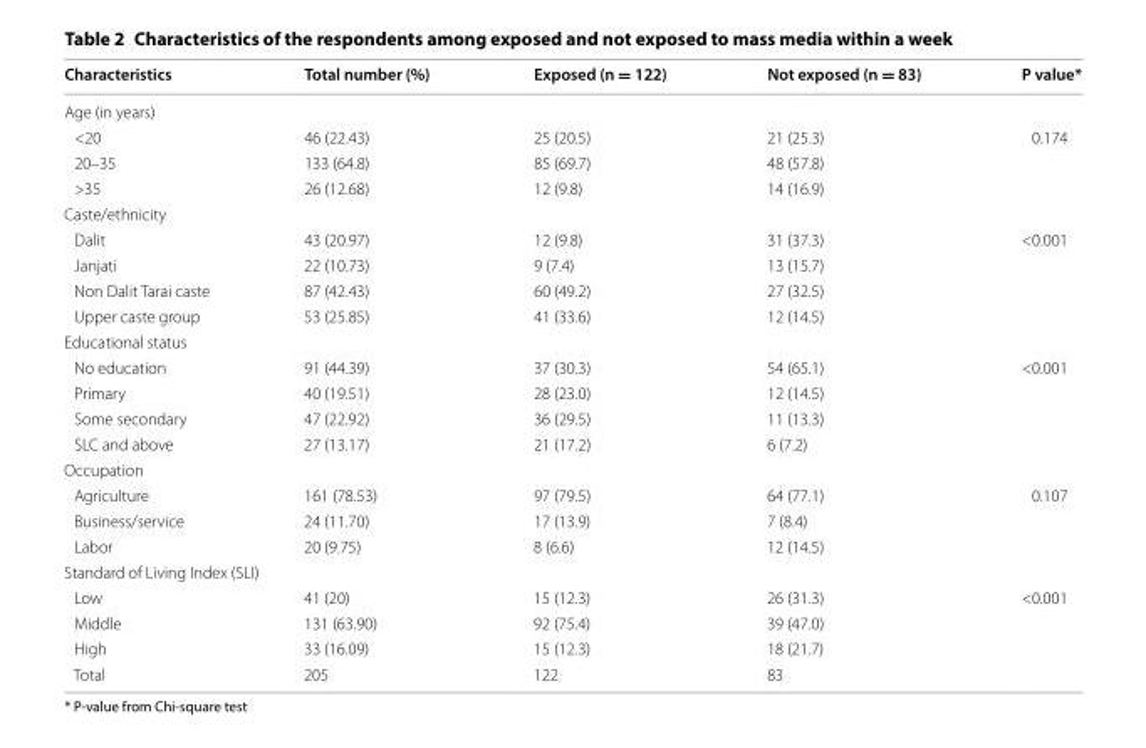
<table><thead><tr><td>Characteristics</td><td>Total number (%)</td><td>Exposed (n = 122)</td><td>Not exposed (n = 83)</td><td>P value*</td></tr></thead><tbody><tr><td colspan="5">Age (in years)</td></tr><tr><td>&lt;20</td><td>46 (22.43)</td><td>25 (20.5)</td><td>21 (25.3)</td><td rowspan="3">0.174</td></tr><tr><td>20–35</td><td>133 (64.8)</td><td>85 (69.7)</td><td>48 (57.8)</td></tr><tr><td>&gt;35</td><td>26 (12.68)</td><td>12 (9.8)</td><td>14 (16.9)</td></tr><tr><td colspan="5">Caste/ethnicity</td></tr><tr><td>Dalit</td><td>43 (20.97)</td><td>12 (9.8)</td><td>31 (37.3)</td><td rowspan="4">&lt;0.001</td></tr><tr><td>Janjati</td><td>22 (10.73)</td><td>9 (7.4)</td><td>13 (15.7)</td></tr><tr><td>Non Dalit Tarai caste</td><td>87 (42.43)</td><td>60 (49.2)</td><td>27 (32.5)</td></tr><tr><td>Upper caste group</td><td>53 (25.85)</td><td>41 (33.6)</td><td>12 (14.5)</td></tr><tr><td colspan="5">Educational status</td></tr><tr><td>No education</td><td>91 (44.39)</td><td>37 (30.3)</td><td>54 (65.1)</td><td rowspan="4">&lt;0.001</td></tr><tr><td>Primary</td><td>40 (19.51)</td><td>28 (23.0)</td><td>12 (14.5)</td></tr><tr><td>Some secondary</td><td>47 (22.92)</td><td>36 (29.5)</td><td>11 (13.3)</td></tr><tr><td>SLC and above</td><td>27 (13.17)</td><td>21 (17.2)</td><td>6 (7.2)</td></tr><tr><td colspan="5">Occupation</td></tr><tr><td>Agriculture</td><td>161 (78.53)</td><td>97 (79.5)</td><td>64 (77.1)</td><td rowspan="3">0.107</td></tr><tr><td>Business/service</td><td>24 (11.70)</td><td>17 (13.9)</td><td>7 (8.4)</td></tr><tr><td>Labor</td><td>20 (9.75)</td><td>8 (6.6)</td><td>12 (14.5)</td></tr><tr><td colspan="5">Standard of Living Index (SLI)</td></tr><tr><td>Low</td><td>41 (20)</td><td>15 (12.3)</td><td>26 (31.3)</td><td rowspan="4">&lt;0.001</td></tr><tr><td>Middle</td><td>131 (63.90)</td><td>92 (75.4)</td><td>39 (47.0)</td></tr><tr><td>High</td><td>33 (16.09)</td><td>15 (12.3)</td><td>18 (21.7)</td></tr><tr><td>Total</td><td>205</td><td>122</td><td>83</td></tr></tbody></table>